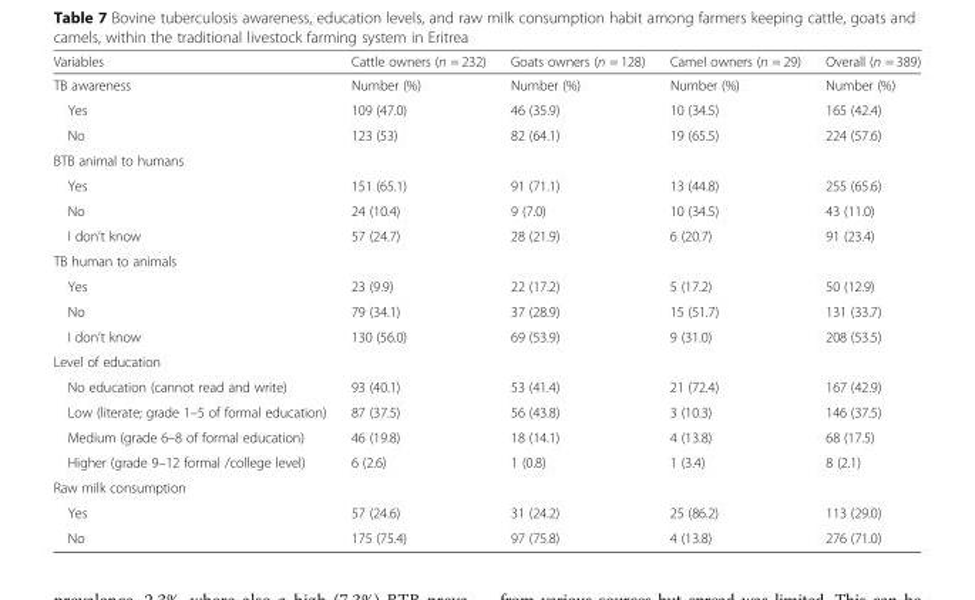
<table><thead><tr><td>Variables</td><td>Cattle owners (n = 232)</td><td>Goats owners (n = 128)</td><td>Camel owners (n = 29)</td><td>Overall (n = 389)</td></tr></thead><tbody><tr><td>TB awareness</td><td>Number (%)</td><td>Number (%)</td><td>Number (%)</td><td>Number (%)</td></tr><tr><td>Yes</td><td>109 (47.0)</td><td>46 (35.9)</td><td>10 (34.5)</td><td>165 (42.4)</td></tr><tr><td>No</td><td>123 (53)</td><td>82 (64.1)</td><td>19 (65.5)</td><td>224 (57.6)</td></tr><tr><td colspan="5">BTB animal to humans</td></tr><tr><td>Yes</td><td>151 (65.1)</td><td>91 (71.1)</td><td>13 (44.8)</td><td>255 (65.6)</td></tr><tr><td>No</td><td>24 (10.4)</td><td>9 (7.0)</td><td>10 (34.5)</td><td>43 (11.0)</td></tr><tr><td>I don’t know</td><td>57 (24.7)</td><td>28 (21.9)</td><td>6 (20.7)</td><td>91 (23.4)</td></tr><tr><td colspan="5">TB human to animals</td></tr><tr><td>Yes</td><td>23 (9.9)</td><td>22 (17.2)</td><td>5 (17.2)</td><td>50 (12.9)</td></tr><tr><td>No</td><td>79 (34.1)</td><td>37 (28.9)</td><td>15 (51.7)</td><td>131 (33.7)</td></tr><tr><td>I don’t know</td><td>130 (56.0)</td><td>69 (53.9)</td><td>9 (31.0)</td><td>208 (53.5)</td></tr><tr><td colspan="5">Level of education</td></tr><tr><td>No education (cannot read and write)</td><td>93 (40.1)</td><td>53 (41.4)</td><td>21 (72.4)</td><td>167 (42.9)</td></tr><tr><td>Low (literate; grade 1–5 of formal education)</td><td>87 (37.5)</td><td>56 (43.8)</td><td>3 (10.3)</td><td>146 (37.5)</td></tr><tr><td>Medium (grade 6–8 of formal education)</td><td>46 (19.8)</td><td>18 (14.1)</td><td>4 (13.8)</td><td>68 (17.5)</td></tr><tr><td>Higher (grade 9–12 formal /college level)</td><td>6 (2.6)</td><td>1 (0.8)</td><td>1 (3.4)</td><td>8 (2.1)</td></tr><tr><td colspan="5">Raw milk consumption</td></tr><tr><td>Yes</td><td>57 (24.6)</td><td>31 (24.2)</td><td>25 (86.2)</td><td>113 (29.0)</td></tr><tr><td>No</td><td>175 (75.4)</td><td>97 (75.8)</td><td>4 (13.8)</td><td>276 (71.0)</td></tr></tbody></table>